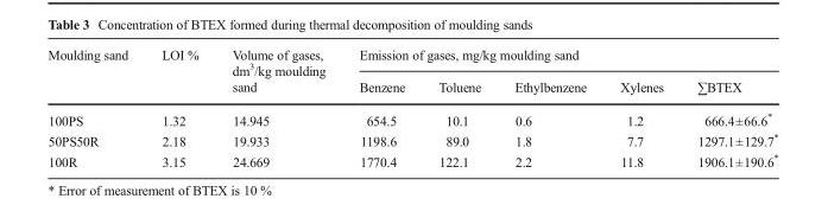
<table><thead><tr><td rowspan="2">Moulding sand</td><td rowspan="2">LOI %</td><td rowspan="2">Volume of gases, dm<sup>3</sup>/kg moulding sand</td><td colspan="5">Emission of gases, mg/kg moulding sand</td></tr><tr><td>Benzene</td><td>Toluene</td><td>Ethylbenzene</td><td>Xylenes</td><td>∑BTEX</td></tr></thead><tbody><tr><td>100PS</td><td>1.32</td><td>14.945</td><td>654.5</td><td>10.1</td><td>0.6</td><td>1.2</td><td>666.4±66.6*</td></tr><tr><td>50PS50R</td><td>2.18</td><td>19.933</td><td>1198.6</td><td>89.0</td><td>1.8</td><td>7.7</td><td>1297.1±129.7*</td></tr><tr><td>100R</td><td>3.15</td><td>24.669</td><td>1770.4</td><td>122.1</td><td>2.2</td><td>11.8</td><td>1906.1±190.6*</td></tr></tbody></table>